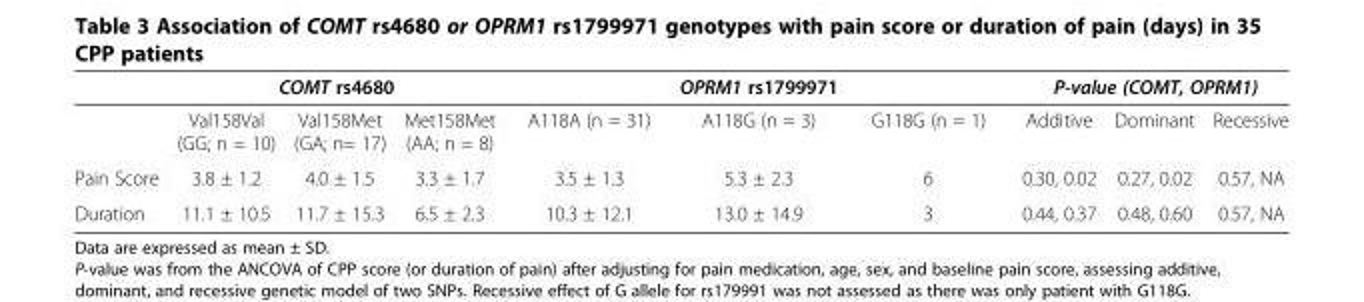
<table><thead><tr><td rowspan="2"></td><td colspan="3">COMT rs4680</td><td colspan="3">OPRM1 rs1799971</td><td colspan="3">P-value (COMT, OPRM1)</td></tr><tr><td>Val158Val (GG; n = 10)</td><td>Val158Met (GA; n= 17)</td><td>Met158Met (AA; n = 8)</td><td>A118A (n = 31)</td><td>A118G (n = 3)</td><td>G118G (n = 1)</td><td>Additive</td><td>Dominant</td><td>Recessive</td></tr></thead><tbody><tr><td>Pain Score</td><td>3.8 ± 1.2</td><td>4.0 ± 1.5</td><td>3.3 ± 1.7</td><td>3.5 ± 1.3</td><td>5.3 ± 2.3</td><td>6</td><td>0.30, 0.02</td><td>0.27, 0.02</td><td>0.57, NA</td></tr><tr><td>Duration</td><td>11.1 ± 10.5</td><td>11.7 ± 15.3</td><td>6.5 ± 2.3</td><td>10.3 ± 12.1</td><td>13.0 ± 14.9</td><td>3</td><td>0.44, 0.37</td><td>0.48, 0.60</td><td>0.57, NA</td></tr></tbody></table>